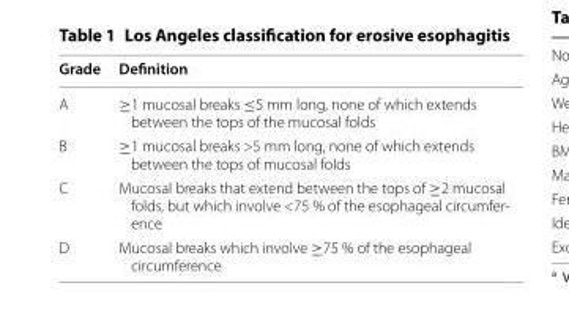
<table><thead><tr><td>Grade</td><td>Definition</td></tr></thead><tbody><tr><td>A</td><td>≥1 mucosal breaks ≤5 mm long, none of which extends between the tops of the mucosal folds</td></tr><tr><td>B</td><td>≥1 mucosal breaks &gt;5 mm long, none of which extends between the tops of mucosal folds</td></tr><tr><td>C</td><td>Mucosal breaks that extend between the tops of ≥2 mucosal folds, but which involve &lt;75 % of the esophageal circumfer- ence</td></tr><tr><td>D</td><td>Mucosal breaks which involve ≥75 % of the esophageal circumference</td></tr></tbody></table>